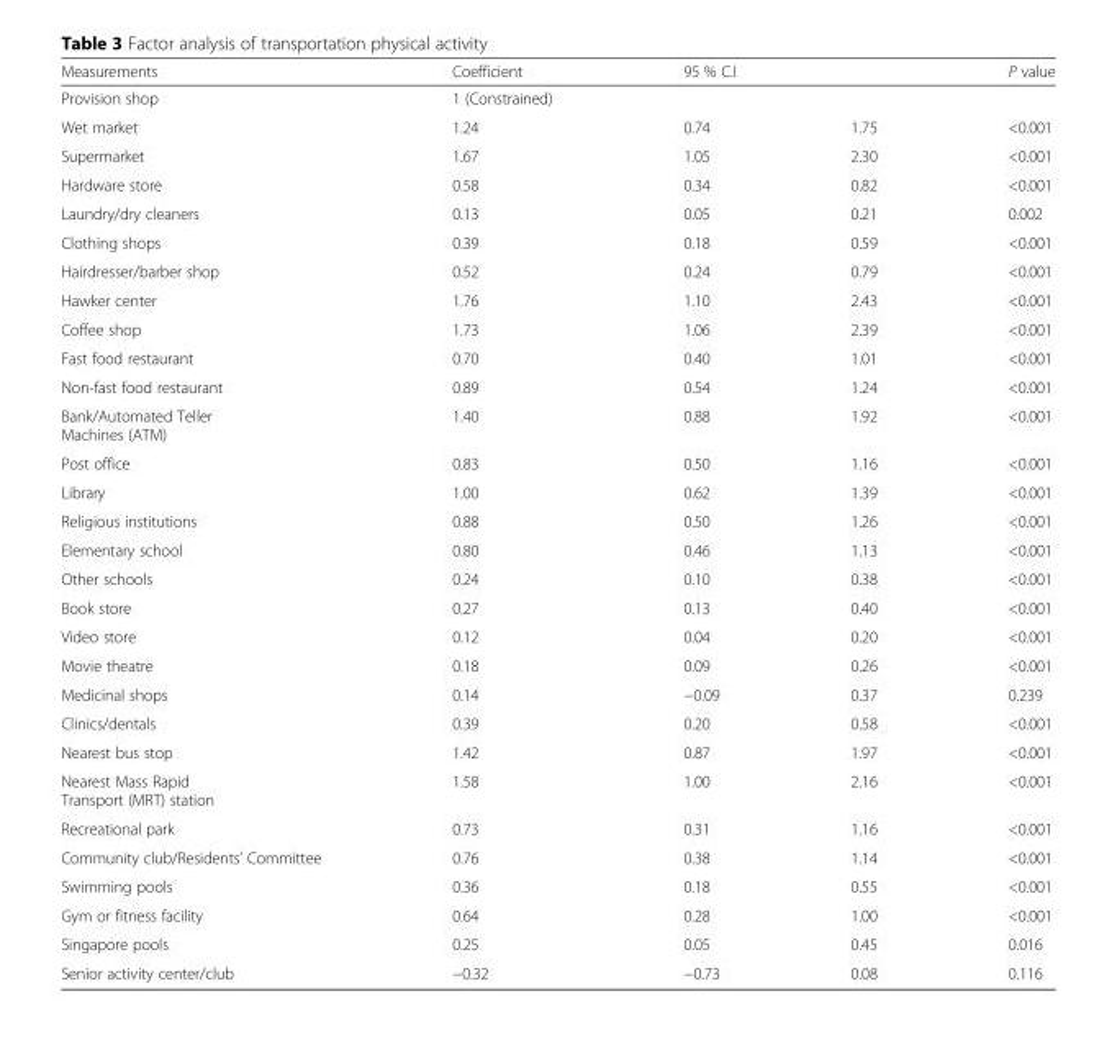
<table><thead><tr><td rowspan="2">Measurements Provision shop</td><td rowspan="2">Coefficient 1 (Constrained)</td><td colspan="2">95 % C.I</td><td rowspan="2">P value</td></tr><tr><td></td><td></td></tr></thead><tbody><tr><td>Wet market</td><td>1.24</td><td>0.74</td><td>1.75</td><td>&lt;0.001</td></tr><tr><td>Supermarket</td><td>1.67</td><td>1.05</td><td>2.30</td><td>&lt;0.001</td></tr><tr><td>Hardware store</td><td>0.58</td><td>0.34</td><td>0.82</td><td>&lt;0.001</td></tr><tr><td>Laundry/dry cleaners</td><td>0.13</td><td>0.05</td><td>0.21</td><td>0.002</td></tr><tr><td>Clothing shops</td><td>0.39</td><td>0.18</td><td>0.59</td><td>&lt;0.001</td></tr><tr><td>Hairdresser/barber shop</td><td>0.52</td><td>0.24</td><td>0.79</td><td>&lt;0.001</td></tr><tr><td>Hawker center</td><td>1.76</td><td>1.10</td><td>2.43</td><td>&lt;0.001</td></tr><tr><td>Coffee shop</td><td>1.73</td><td>1.06</td><td>2.39</td><td>&lt;0.001</td></tr><tr><td>Fast food restaurant</td><td>0.70</td><td>0.40</td><td>1.01</td><td>&lt;0.001</td></tr><tr><td>Non-fast food restaurant</td><td>0.89</td><td>0.54</td><td>1.24</td><td>&lt;0.001</td></tr><tr><td>Bank/Automated Teller Machines (ATM)</td><td>1.40</td><td>0.88</td><td>1.92</td><td>&lt;0.001</td></tr><tr><td>Post office</td><td>0.83</td><td>0.50</td><td>1.16</td><td>&lt;0.001</td></tr><tr><td>Library</td><td>1.00</td><td>0.62</td><td>1.39</td><td>&lt;0.001</td></tr><tr><td>Religious institutions</td><td>0.88</td><td>0.50</td><td>1.26</td><td>&lt;0.001</td></tr><tr><td>Elementary school</td><td>0.80</td><td>0.46</td><td>1.13</td><td>&lt;0.001</td></tr><tr><td>Other schools</td><td>0.24</td><td>0.10</td><td>0.38</td><td>&lt;0.001</td></tr><tr><td>Book store</td><td>0.27</td><td>0.13</td><td>0.40</td><td>&lt;0.001</td></tr><tr><td>Video store</td><td>0.12</td><td>0.04</td><td>0.20</td><td>&lt;0.001</td></tr><tr><td>Movie theatre</td><td>0.18</td><td>0.09</td><td>0.26</td><td>&lt;0.001</td></tr><tr><td>Medicinal shops</td><td>0.14</td><td>−0.09</td><td>0.37</td><td>0.239</td></tr><tr><td>Clinics/dentals</td><td>0.39</td><td>0.20</td><td>0.58</td><td>&lt;0.001</td></tr><tr><td>Nearest bus stop</td><td>1.42</td><td>0.87</td><td>1.97</td><td>&lt;0.001</td></tr><tr><td>Nearest Mass Rapid Transport (MRT) station</td><td>1.58</td><td>1.00</td><td>2.16</td><td>&lt;0.001</td></tr><tr><td>Recreational park</td><td>0.73</td><td>0.31</td><td>1.16</td><td>&lt;0.001</td></tr><tr><td>Community club/Residents’ Committee</td><td>0.76</td><td>0.38</td><td>1.14</td><td>&lt;0.001</td></tr><tr><td>Swimming pools</td><td>0.36</td><td>0.18</td><td>0.55</td><td>&lt;0.001</td></tr><tr><td>Gym or fitness facility</td><td>0.64</td><td>0.28</td><td>1.00</td><td>&lt;0.001</td></tr><tr><td>Singapore pools</td><td>0.25</td><td>0.05</td><td>0.45</td><td>0.016</td></tr><tr><td>Senior activity center/club</td><td>−0.32</td><td>−0.73</td><td>0.08</td><td>0.116</td></tr></tbody></table>